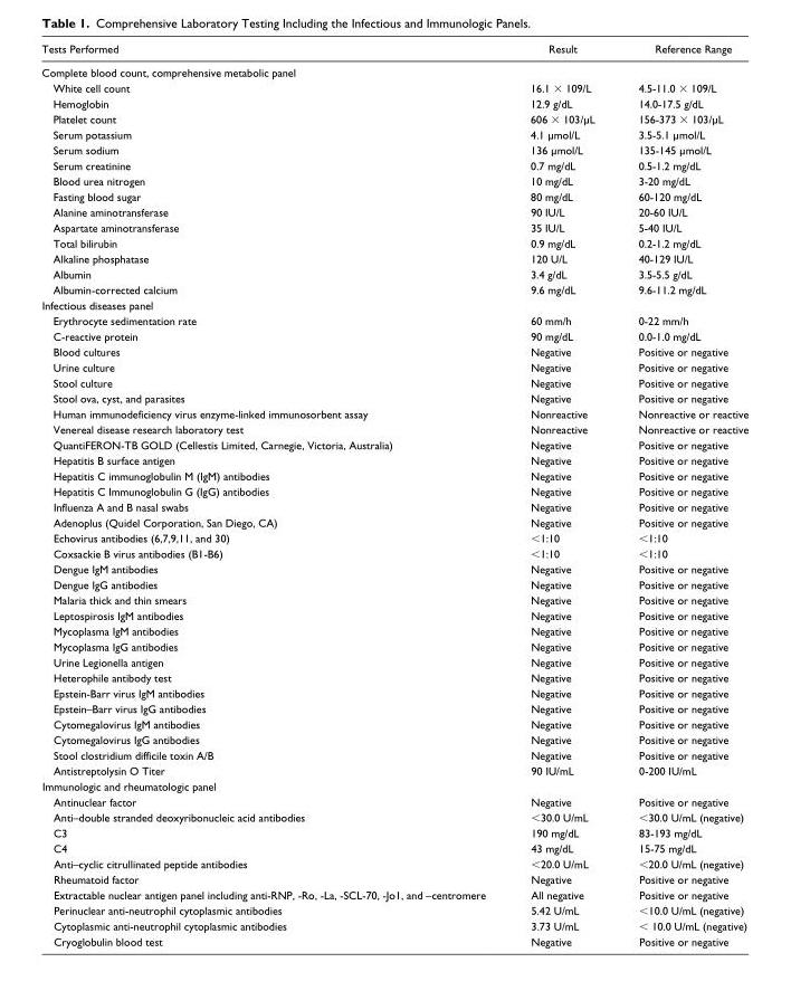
<table><thead><tr><td>Tests Performed</td><td>Result</td><td>Reference Range</td></tr></thead><tbody><tr><td colspan="3">Complete blood count, comprehensive metabolic panel</td></tr><tr><td>White cell count</td><td>16.1 × 109/L</td><td>4.5-11.0 × 109/L</td></tr><tr><td>Hemoglobin</td><td>12.9 g/dL</td><td>14.0-17.5 g/dL</td></tr><tr><td>Platelet count</td><td>606 × 103/µL</td><td>156-373 × 103/µL</td></tr><tr><td>Serum potassium</td><td>4.1 µmol/L</td><td>3.5-5.1 µmol/L</td></tr><tr><td>Serum sodium</td><td>136 µmol/L</td><td>135-145 µmol/L</td></tr><tr><td>Serum creatinine</td><td>0.7 mg/dL</td><td>0.5-1.2 mg/dL</td></tr><tr><td>Blood urea nitrogen</td><td>10 mg/dL</td><td>3-20 mg/dL</td></tr><tr><td>Fasting blood sugar</td><td>80 mg/dL</td><td>60-120 mg/dL</td></tr><tr><td>Alanine aminotransferase</td><td>90 IU/L</td><td>20-60 IU/L</td></tr><tr><td>Aspartate aminotransferase</td><td>35 IU/L</td><td>5-40 IU/L</td></tr><tr><td>Total bilirubin</td><td>0.9 mg/dL</td><td>0.2-1.2 mg/dL</td></tr><tr><td>Alkaline phosphatase</td><td>120 U/L</td><td>40-129 IU/L</td></tr><tr><td>Albumin</td><td>3.4 g/dL</td><td>3.5-5.5 g/dL</td></tr><tr><td>Albumin-corrected calcium</td><td>9.6 mg/dL</td><td>9.6-11.2 mg/dL</td></tr><tr><td colspan="3">Infectious diseases panel</td></tr><tr><td>Erythrocyte sedimentation rate</td><td>60 mm/h</td><td>0-22 mm/h</td></tr><tr><td>C-reactive protein</td><td>90 mg/dL</td><td>0.0-1.0 mg/dL</td></tr><tr><td>Blood cultures</td><td>Negative</td><td>Positive or negative</td></tr><tr><td>Urine culture</td><td>Negative</td><td>Positive or negative</td></tr><tr><td>Stool culture</td><td>Negative</td><td>Positive or negative</td></tr><tr><td>Stool ova, cyst, and parasites</td><td>Negative</td><td>Positive or negative</td></tr><tr><td>Human immunodeficiency virus enzyme-linked immunosorbent assay</td><td>Nonreactive</td><td>Nonreactive or reactive</td></tr><tr><td>Venereal disease research laboratory test</td><td>Nonreactive</td><td>Nonreactive or reactive</td></tr><tr><td>QuantiFERON-TB GOLD (Cellestis Limited, Carnegie, Victoria, Australia)</td><td>Negative</td><td>Positive or negative</td></tr><tr><td>Hepatitis B surface antigen</td><td>Negative</td><td>Positive or negative</td></tr><tr><td>Hepatitis C immunoglobulin M (IgM) antibodies</td><td>Negative</td><td>Positive or negative</td></tr><tr><td>Hepatitis C Immunoglobulin G (IgG) antibodies</td><td>Negative</td><td>Positive or negative</td></tr><tr><td>Influenza A and B nasal swabs</td><td>Negative</td><td>Positive or negative</td></tr><tr><td>Adenoplus (Quidel Corporation, San Diego, CA)</td><td>Negative</td><td>Positive or negative</td></tr><tr><td>Echovirus antibodies (6,7,9,11, and 30)</td><td>&lt;1:10</td><td>&lt;1:10</td></tr><tr><td>Coxsackie B virus antibodies (B1-B6)</td><td>&lt;1:10</td><td>&lt;1:10</td></tr><tr><td>Dengue IgM antibodies</td><td>Negative</td><td>Positive or negative</td></tr><tr><td>Dengue IgG antibodies</td><td>Negative</td><td>Positive or negative</td></tr><tr><td>Malaria thick and thin smears</td><td>Negative</td><td>Positive or negative</td></tr><tr><td>Leptospirosis IgM antibodies</td><td>Negative</td><td>Positive or negative</td></tr><tr><td>Mycoplasma IgM antibodies</td><td>Negative</td><td>Positive or negative</td></tr><tr><td>Mycoplasma IgG antibodies</td><td>Negative</td><td>Positive or negative</td></tr><tr><td>Urine Legionella antigen</td><td>Negative</td><td>Positive or negative</td></tr><tr><td>Heterophile antibody test</td><td>Negative</td><td>Positive or negative</td></tr><tr><td>Epstein-Barr virus IgM antibodies</td><td>Negative</td><td>Positive or negative</td></tr><tr><td>Epstein–Barr virus IgG antibodies</td><td>Negative</td><td>Positive or negative</td></tr><tr><td>Cytomegalovirus IgM antibodies</td><td>Negative</td><td>Positive or negative</td></tr><tr><td>Cytomegalovirus IgG antibodies</td><td>Negative</td><td>Positive or negative</td></tr><tr><td>Stool clostridium difficile toxin A/B</td><td>Negative</td><td>Positive or negative</td></tr><tr><td>Antistreptolysin O Titer</td><td>90 IU/mL</td><td>0-200 IU/mL</td></tr><tr><td colspan="3">Immunologic and rheumatologic panel</td></tr><tr><td>Antinuclear factor</td><td>Negative</td><td>Positive or negative</td></tr><tr><td>Anti–double stranded deoxyribonucleic acid antibodies</td><td>&lt;30.0 U/mL</td><td>&lt;30.0 U/mL (negative)</td></tr><tr><td>C3</td><td>190 mg/dL</td><td>83-193 mg/dL</td></tr><tr><td>C4</td><td>43 mg/dL</td><td>15-75 mg/dL</td></tr><tr><td>Anti–cyclic citrullinated peptide antibodies</td><td>&lt;20.0 U/mL</td><td>&lt;20.0 U/mL (negative)</td></tr><tr><td>Rheumatoid factor</td><td>Negative</td><td>Positive or negative</td></tr><tr><td>Extractable nuclear antigen panel including anti-RNP, -Ro, -La, -SCL-70, -Jo1, and –centromere</td><td>All negative</td><td>Positive or negative</td></tr><tr><td>Perinuclear anti-neutrophil cytoplasmic antibodies</td><td>5.42 U/mL</td><td>&lt;10.0 U/mL (negative)</td></tr><tr><td>Cytoplasmic anti-neutrophil cytoplasmic antibodies</td><td>3.73 U/mL</td><td>&lt; 10.0 U/mL (negative)</td></tr><tr><td>Cryoglobulin blood test</td><td>Negative</td><td>Positive or negative</td></tr></tbody></table>